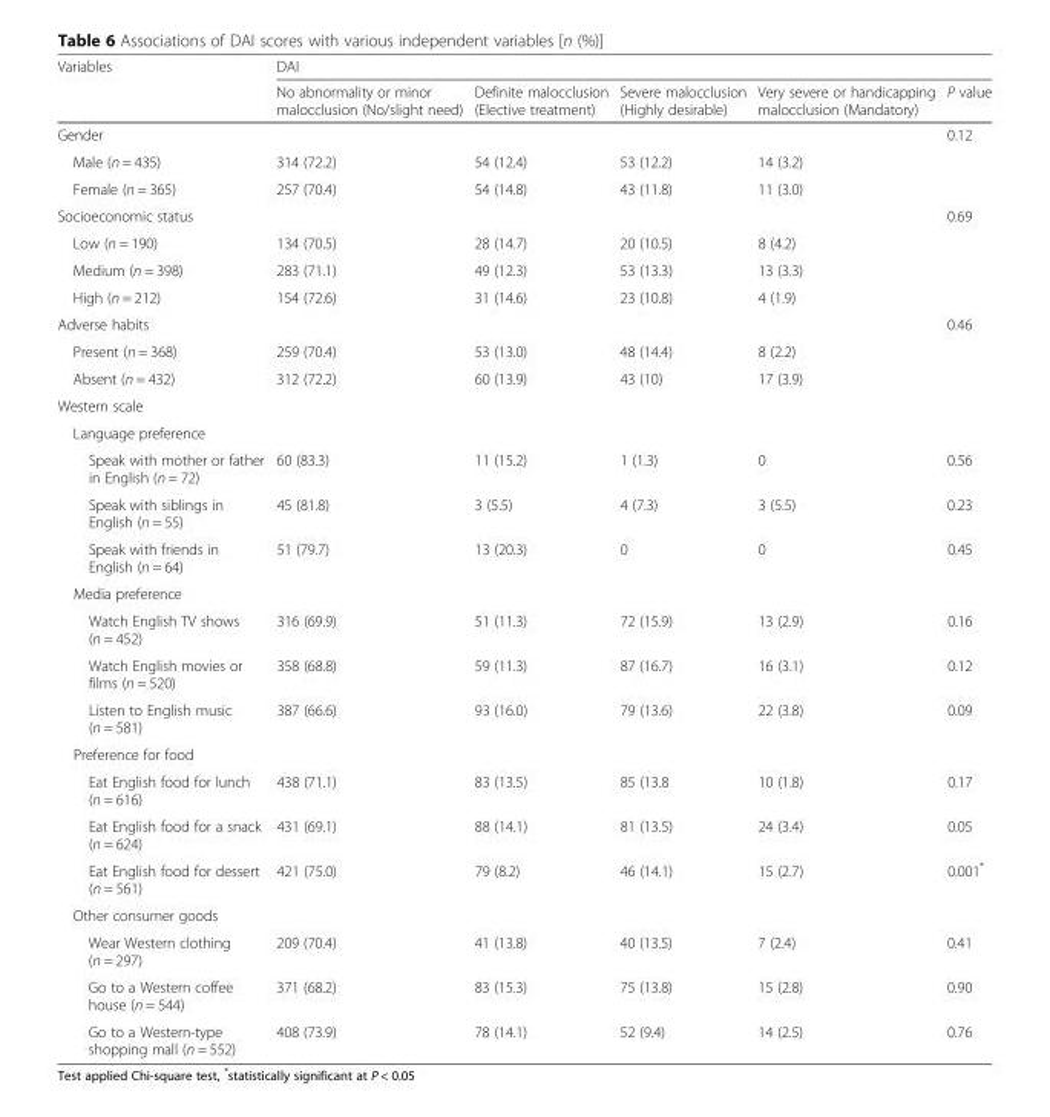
<table><thead><tr><td rowspan="2">Variables</td><td colspan="5">DAI</td></tr><tr><td>No abnormality or minor malocclusion (No/slight need)</td><td>Definite malocclusion (Elective treatment)</td><td>Severe malocclusion (Highly desirable)</td><td>Very severe or handicapping malocclusion (Mandatory)</td><td>P value</td></tr></thead><tbody><tr><td>Gender</td><td></td><td></td><td></td><td></td><td>0.12</td></tr><tr><td>Male (n = 435)</td><td>314 (72.2)</td><td>54 (12.4)</td><td>53 (12.2)</td><td>14 (3.2)</td><td rowspan="2"></td></tr><tr><td>Female (n = 365)</td><td>257 (70.4)</td><td>54 (14.8)</td><td>43 (11.8)</td><td>11 (3.0)</td></tr><tr><td>Socioeconomic status</td><td></td><td></td><td></td><td></td><td>0.69</td></tr><tr><td>Low (n = 190)</td><td>134 (70.5)</td><td>28 (14.7)</td><td>20 (10.5)</td><td>8 (4.2)</td><td rowspan="3"></td></tr><tr><td>Medium (n = 398)</td><td>283 (71.1)</td><td>49 (12.3)</td><td>53 (13.3)</td><td>13 (3.3)</td></tr><tr><td>High (n = 212)</td><td>154 (72.6)</td><td>31 (14.6)</td><td>23 (10.8)</td><td>4 (1.9)</td></tr><tr><td>Adverse habits</td><td></td><td></td><td></td><td></td><td>0.46</td></tr><tr><td>Present (n = 368)</td><td>259 (70.4)</td><td>53 (13.0)</td><td>48 (14.4)</td><td>8 (2.2)</td><td rowspan="2"></td></tr><tr><td>Absent (n = 432)</td><td>312 (72.2)</td><td>60 (13.9)</td><td>43 (10)</td><td>17 (3.9)</td></tr><tr><td colspan="6">Western scale</td></tr><tr><td colspan="6">Language preference</td></tr><tr><td>Speak with mother or father in English (n = 72)</td><td>60 (83.3)</td><td>11 (15.2)</td><td>1 (1.3)</td><td>0</td><td>0.56</td></tr><tr><td>Speak with siblings in English (n = 55)</td><td>45 (81.8)</td><td>3 (5.5)</td><td>4 (7.3)</td><td>3 (5.5)</td><td>0.23</td></tr><tr><td>Speak with friends in English (n = 64)</td><td>51 (79.7)</td><td>13 (20.3)</td><td>0</td><td>0</td><td>0.45</td></tr><tr><td colspan="6">Media preference</td></tr><tr><td>Watch English TV shows (n = 452)</td><td>316 (69.9)</td><td>51 (11.3)</td><td>72 (15.9)</td><td>13 (2.9)</td><td>0.16</td></tr><tr><td>Watch English movies or films (n = 520)</td><td>358 (68.8)</td><td>59 (11.3)</td><td>87 (16.7)</td><td>16 (3.1)</td><td>0.12</td></tr><tr><td>Listen to English music (n = 581)</td><td>387 (66.6)</td><td>93 (16.0)</td><td>79 (13.6)</td><td>22 (3.8)</td><td>0.09</td></tr><tr><td colspan="6">Preference for food</td></tr><tr><td>Eat English food for lunch (n = 616)</td><td>438 (71.1)</td><td>83 (13.5)</td><td>85 (13.8</td><td>10 (1.8)</td><td>0.17</td></tr><tr><td>Eat English food for a snack (n = 624)</td><td>431 (69.1)</td><td>88 (14.1)</td><td>81 (13.5)</td><td>24 (3.4)</td><td>0.05</td></tr><tr><td>Eat English food for dessert (n = 561)</td><td>421 (75.0)</td><td>79 (8.2)</td><td>46 (14.1)</td><td>15 (2.7)</td><td>0.001*</td></tr><tr><td colspan="6">Other consumer goods</td></tr><tr><td>Wear Western clothing (n = 297)</td><td>209 (70.4)</td><td>41 (13.8)</td><td>40 (13.5)</td><td>7 (2.4)</td><td>0.41</td></tr><tr><td>Go to a Western coffee house (n = 544)</td><td>371 (68.2)</td><td>83 (15.3)</td><td>75 (13.8)</td><td>15 (2.8)</td><td>0.90</td></tr><tr><td>Go to a Western-type shopping mall (n = 552)</td><td>408 (73.9)</td><td>78 (14.1)</td><td>52 (9.4)</td><td>14 (2.5)</td><td>0.76</td></tr></tbody></table>